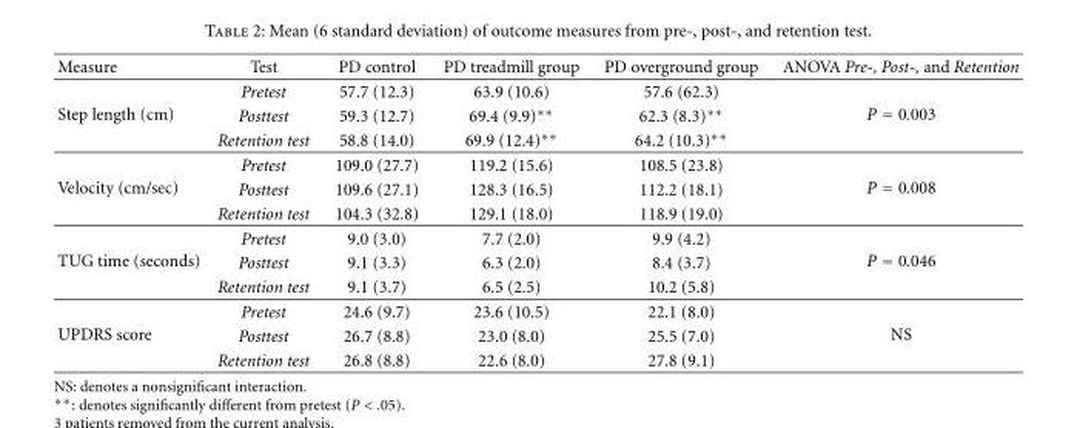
<table><thead><tr><td>Measure</td><td>Test</td><td>PD control</td><td>PD treadmill group</td><td>PD overground group</td><td>ANOVA Pre-, Post-, and Retention</td></tr></thead><tbody><tr><td rowspan="3">Step length (cm)</td><td>Pretest</td><td>57.7 (12.3)</td><td>63.9 (10.6)</td><td>57.6 (62.3)</td><td rowspan="3">P = 0.003</td></tr><tr><td>Posttest</td><td>59.3 (12.7)</td><td>69.4 (9.9)∗∗</td><td>62.3 (8.3)∗∗</td></tr><tr><td>Retention test</td><td>58.8 (14.0)</td><td>69.9 (12.4)∗∗</td><td>64.2 (10.3)∗∗</td></tr><tr><td rowspan="3">Velocity (cm/sec)</td><td>Pretest</td><td>109.0 (27.7)</td><td>119.2 (15.6)</td><td>108.5 (23.8)</td><td rowspan="3">P = 0.008</td></tr><tr><td>Posttest</td><td>109.6 (27.1)</td><td>128.3 (16.5)</td><td>112.2 (18.1)</td></tr><tr><td>Retention test</td><td>104.3 (32.8)</td><td>129.1 (18.0)</td><td>118.9 (19.0)</td></tr><tr><td rowspan="3">TUG time (seconds)</td><td>Pretest</td><td>9.0 (3.0)</td><td>7.7 (2.0)</td><td>9.9 (4.2)</td><td rowspan="3">P = 0.046</td></tr><tr><td>Posttest</td><td>9.1 (3.3)</td><td>6.3 (2.0)</td><td>8.4 (3.7)</td></tr><tr><td>Retention test</td><td>9.1 (3.7)</td><td>6.5 (2.5)</td><td>10.2 (5.8)</td></tr><tr><td rowspan="3">UPDRS score</td><td>Pretest</td><td>24.6 (9.7)</td><td>23.6 (10.5)</td><td>22.1 (8.0)</td><td rowspan="3">NS</td></tr><tr><td>Posttest</td><td>26.7 (8.8)</td><td>23.0 (8.0)</td><td>25.5 (7.0)</td></tr><tr><td>Retention test</td><td>26.8 (8.8)</td><td>22.6 (8.0)</td><td>27.8 (9.1)</td></tr></tbody></table>